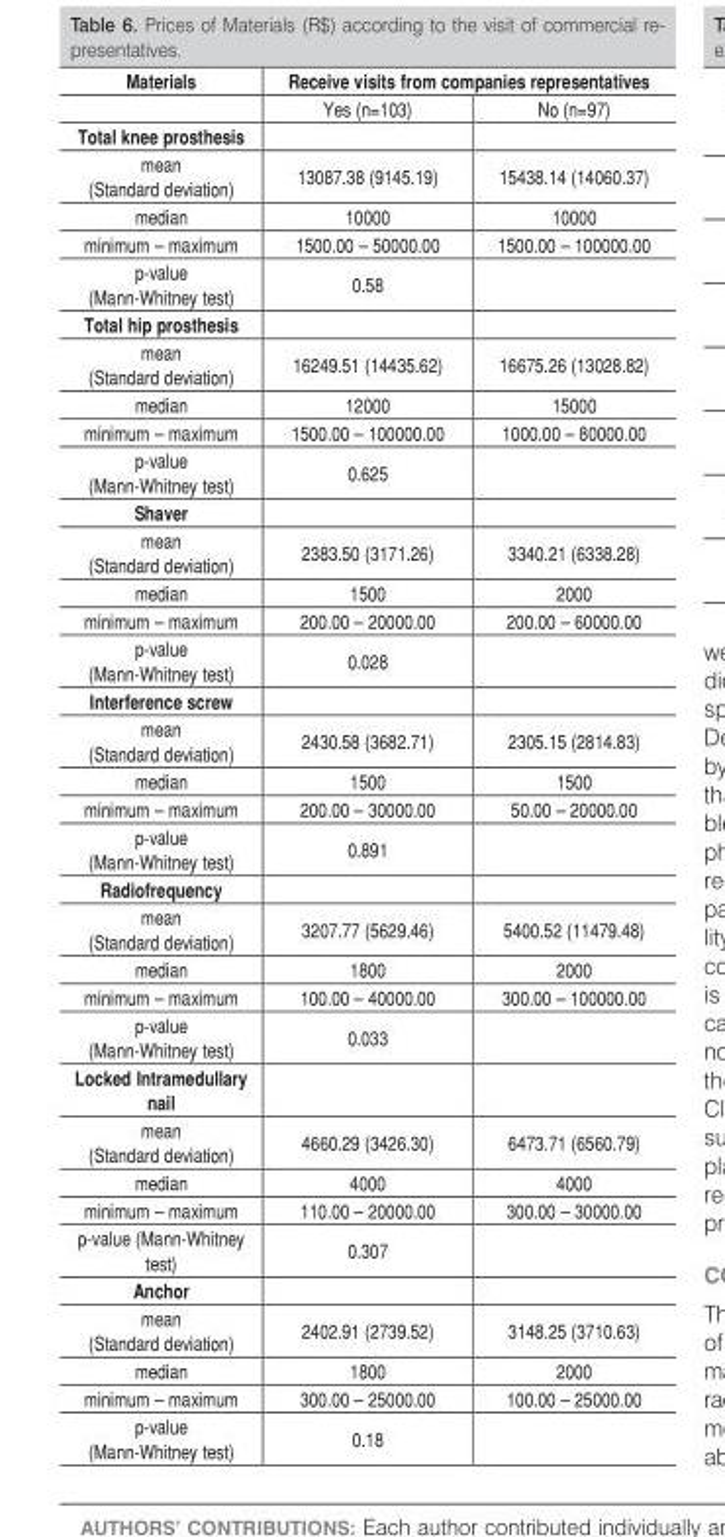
<table><thead><tr><td rowspan="2">Materials</td><td colspan="2">Receive visits from companies representatives</td></tr><tr><td>Yes (n=103)</td><td>No (n=97)</td></tr></thead><tbody><tr><td colspan="3">Total knee prosthesis</td></tr><tr><td>mean (Standard deviation)</td><td>13087.38 (9145.19)</td><td>15438.14 (14060.37)</td></tr><tr><td>median</td><td>10000</td><td>10000</td></tr><tr><td>minimum – maximum</td><td>1500.00 – 50000.00</td><td>1500.00 – 100000.00</td></tr><tr><td>p-value (Mann-Whitney test)</td><td>0.58</td><td></td></tr><tr><td colspan="3">Total hip prosthesis</td></tr><tr><td>mean (Standard deviation)</td><td>16249.51 (14435.62)</td><td>16675.26 (13028.82)</td></tr><tr><td>median</td><td>12000</td><td>15000</td></tr><tr><td>minimum – maximum</td><td>1500.00 – 100000.00</td><td>1000.00 – 80000.00</td></tr><tr><td>p-value (Mann-Whitney test)</td><td>0.625</td><td></td></tr><tr><td colspan="3">Shaver</td></tr><tr><td>mean (Standard deviation)</td><td>2383.50 (3171.26)</td><td>3340.21 (6338.28)</td></tr><tr><td>median</td><td>1500</td><td>2000</td></tr><tr><td>minimum – maximum</td><td>200.00 – 20000.00</td><td>200.00 – 60000.00</td></tr><tr><td>p-value (Mann-Whitney test)</td><td>0.028</td><td></td></tr><tr><td colspan="3">Interference screw</td></tr><tr><td>mean (Standard deviation)</td><td>2430.58 (3682.71)</td><td>2305.15 (2814.83)</td></tr><tr><td>median</td><td>1500</td><td>1500</td></tr><tr><td>minimum – maximum</td><td>200.00 – 30000.00</td><td>50.00 – 20000.00</td></tr><tr><td>p-value (Mann-Whitney test)</td><td>0.891</td><td></td></tr><tr><td colspan="3">Radiofrequency</td></tr><tr><td>mean (Standard deviation)</td><td>3207.77 (5629.46)</td><td>5400.52 (11479.48)</td></tr><tr><td>median</td><td>1800</td><td>2000</td></tr><tr><td>minimum – maximum</td><td>100.00 – 40000.00</td><td>300.00 – 100000.00</td></tr><tr><td>p-value (Mann-Whitney test)</td><td>0.033</td><td></td></tr><tr><td colspan="3">Locked Intramedullary nail</td></tr><tr><td>mean (Standard deviation)</td><td>4660.29 (3426.30)</td><td>6473.71 (6560.79)</td></tr><tr><td>median</td><td>4000</td><td>4000</td></tr><tr><td>minimum – maximum</td><td>110.00 – 20000.00</td><td>300.00 – 30000.00</td></tr><tr><td>p-value (Mann-Whitney test)</td><td>0.307</td><td></td></tr><tr><td colspan="3">Anchor</td></tr><tr><td>mean (Standard deviation)</td><td>2402.91 (2739.52)</td><td>3148.25 (3710.63)</td></tr><tr><td>median</td><td>1800</td><td>2000</td></tr><tr><td>minimum – maximum</td><td>300.00 – 25000.00</td><td>100.00 – 25000.00</td></tr><tr><td>p-value (Mann-Whitney test)</td><td>0.18</td><td></td></tr></tbody></table>